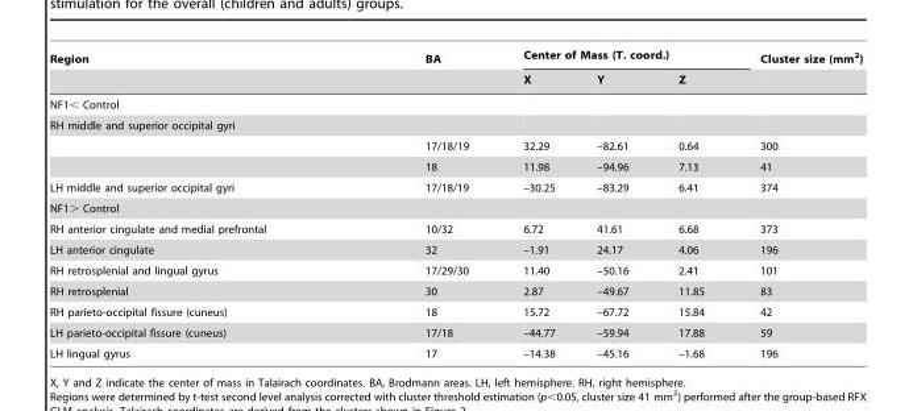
<table><thead><tr><td rowspan="2">Region</td><td rowspan="2">BA</td><td colspan="3">Center of Mass (T. coord.)</td><td rowspan="2">Cluster size (mm<sup>2</sup>)</td></tr><tr><td>X</td><td>Y</td><td>Z</td></tr></thead><tbody><tr><td colspan="6">NF1&lt; Control</td></tr><tr><td colspan="6">RH middle and superior occipital gyri</td></tr><tr><td></td><td>17/18/19</td><td>32.29</td><td>–82.61</td><td>0.64</td><td>300</td></tr><tr><td></td><td>18</td><td>11.98</td><td>–94.96</td><td>7.13</td><td>41</td></tr><tr><td>LH middle and superior occipital gyri</td><td>17/18/19</td><td>–30.25</td><td>–83.29</td><td>6.41</td><td>374</td></tr><tr><td colspan="6">NF1&gt; Control</td></tr><tr><td>RH anterior cingulate and medial prefrontal</td><td>10/32</td><td>6.72</td><td>41.61</td><td>6.68</td><td>373</td></tr><tr><td>LH anterior cingulate</td><td>32</td><td>–1.91</td><td>24.17</td><td>4.06</td><td>196</td></tr><tr><td>RH retrosplenial and lingual gyrus</td><td>17/29/30</td><td>11.40</td><td>–50.16</td><td>2.41</td><td>101</td></tr><tr><td>RH retrosplenial</td><td>30</td><td>2.87</td><td>–49.67</td><td>11.85</td><td>83</td></tr><tr><td>RH parieto-occipital fissure (cuneus)</td><td>18</td><td>15.72</td><td>–67.72</td><td>15.84</td><td>42</td></tr><tr><td>LH parieto-occipital fissure (cuneus)</td><td>17/18</td><td>–44.77</td><td>–59.94</td><td>17.88</td><td>59</td></tr><tr><td>LH lingual gyrus</td><td>17</td><td>–14.38</td><td>–45.16</td><td>–1.68</td><td>196</td></tr></tbody></table>